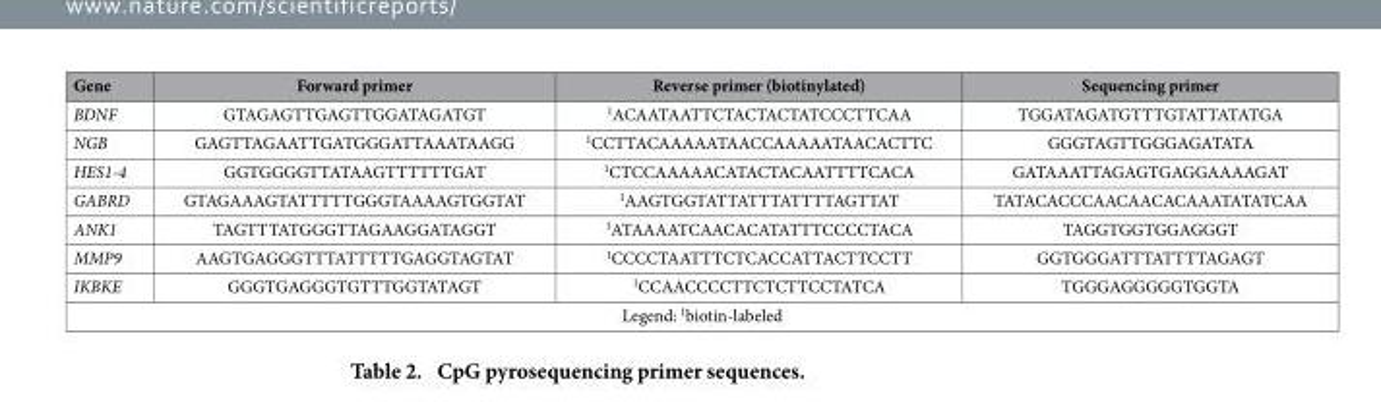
<table><thead><tr><td>Gene</td><td>Forward primer</td><td>Reverse primer (biotinylated)</td><td>Sequencing primer</td></tr></thead><tbody><tr><td>BDNF</td><td>GTAGAGTTGAGTTGGATAGATGT</td><td><sup>1</sup>ACAATAATTCTACTACTATCCCTTCAA</td><td>TGGATAGATGTTTGTATTATATGA</td></tr><tr><td>NGB</td><td>GAGTTAGAATTGATGGGATTAAATAAGG</td><td><sup>1</sup>CCTTACAAAAATAACCAAAAATAACACTTC</td><td>GGGTAGTTGGGAGATATA</td></tr><tr><td>HES1-4</td><td>GGTGGGGTTATAAGTTTTTTGAT</td><td><sup>1</sup>CTCCAAAAACATACTACAATTTTCACA</td><td>GATAAATTAGAGTGAGGAAAAGAT</td></tr><tr><td>GABRD</td><td>GTAGAAAGTATTTTTGGGTAAAAGTGGTAT</td><td><sup>1</sup>AAGTGGTATTATTTATTTTAGTTAT</td><td>TATACACCCAACAACACAAATATATCAA</td></tr><tr><td>ANK1</td><td>TAGTTTATGGGTTAGAAGGATAGGT</td><td><sup>1</sup>ATAAAATCAACACATATTTCCCCTACA</td><td>TAGGTGGTGGAGGGT</td></tr><tr><td>MMP9</td><td>AAGTGAGGGTTTATTTTTGAGGTAGTAT</td><td><sup>1</sup>CCCCTAATTTCTCACCATTACTTCCTT</td><td>GGTGGGATTTATTTTAGAGT</td></tr><tr><td>IKBKE</td><td>GGGTGAGGGTGTTTGGTATAGT</td><td><sup>1</sup>CCAACCCCTTCTCTTCCTATCA</td><td>TGGGAGGGGGTGGTA</td></tr><tr><td colspan="4">Legend: <sup>1</sup>biotin-labeled</td></tr></tbody></table>